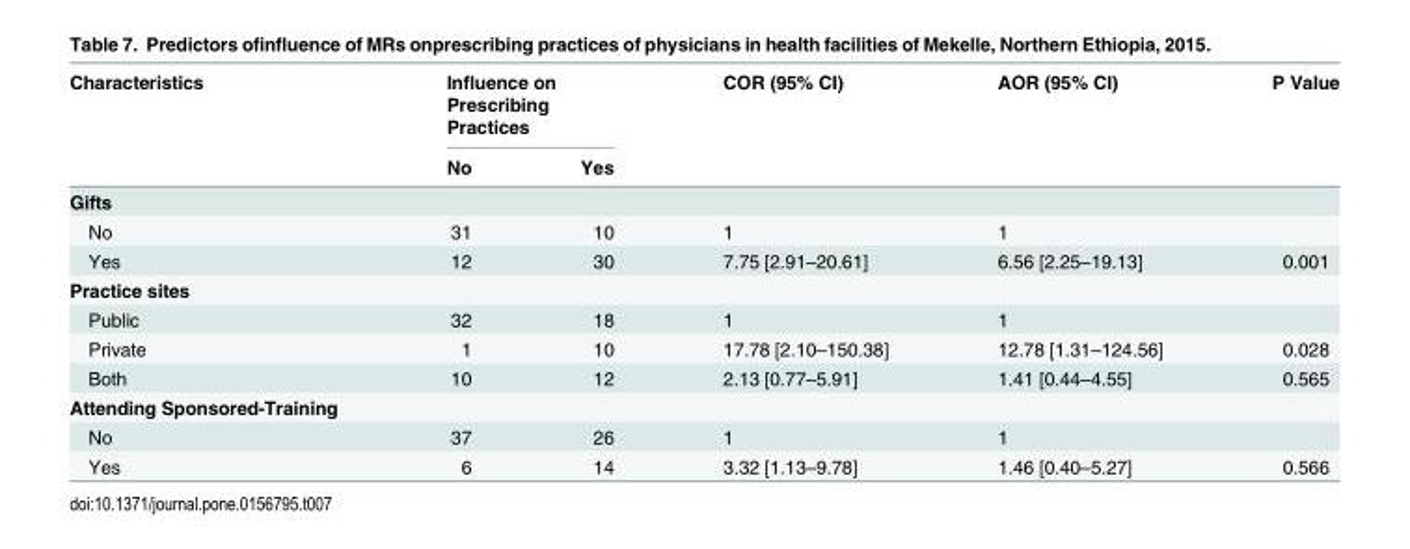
<table><thead><tr><td rowspan="2">Characteristics</td><td colspan="2">Influence on Prescribing Practices</td><td rowspan="2">COR (95% CI)</td><td rowspan="2">AOR (95% CI)</td><td rowspan="2">P Value</td></tr><tr><td>No</td><td>Yes</td></tr></thead><tbody><tr><td colspan="6">Gifts</td></tr><tr><td>No</td><td>31</td><td>10</td><td>1</td><td>1</td><td></td></tr><tr><td>Yes</td><td>12</td><td>30</td><td>7.75 [2.91–20.61]</td><td>6.56 [2.25–19.13]</td><td>0.001</td></tr><tr><td colspan="6">Practice sites</td></tr><tr><td>Public</td><td>32</td><td>18</td><td>1</td><td>1</td><td></td></tr><tr><td>Private</td><td>1</td><td>10</td><td>17.78 [2.10–150.38]</td><td>12.78 [1.31–124.56]</td><td>0.028</td></tr><tr><td>Both</td><td>10</td><td>12</td><td>2.13 [0.77–5.91]</td><td>1.41 [0.44–4.55]</td><td>0.565</td></tr><tr><td colspan="6">Attending Sponsored-Training</td></tr><tr><td>No</td><td>37</td><td>26</td><td>1</td><td>1</td><td></td></tr><tr><td>Yes</td><td>6</td><td>14</td><td>3.32 [1.13–9.78]</td><td>1.46 [0.40–5.27]</td><td>0.566</td></tr></tbody></table>